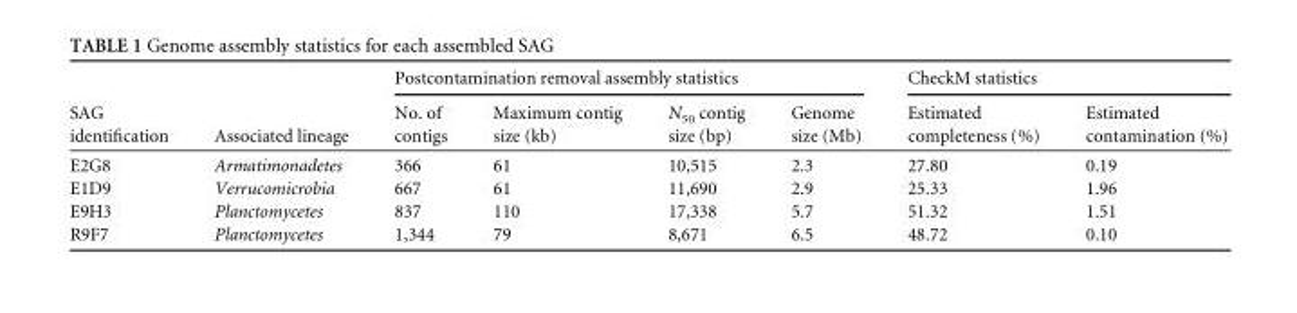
<table><thead><tr><td rowspan="2">SAG identification</td><td rowspan="2">Associated lineage</td><td colspan="4">Postcontamination removal assembly statistics</td><td colspan="2">CheckM statistics</td></tr><tr><td>No. of contigs</td><td>Maximum contig size (kb)</td><td>N<sub>50</sub> contig size (bp)</td><td>Genome size (Mb)</td><td>Estimated completeness (%)</td><td>Estimated contamination (%)</td></tr></thead><tbody><tr><td>E2G8</td><td>Armatimonadetes</td><td>366</td><td>61</td><td>10,515</td><td>2.3</td><td>27.80</td><td>0.19</td></tr><tr><td>E1D9</td><td>Verrucomicrobia</td><td>667</td><td>61</td><td>11,690</td><td>2.9</td><td>25.33</td><td>1.96</td></tr><tr><td>E9H3</td><td>Planctomycetes</td><td>837</td><td>110</td><td>17,338</td><td>5.7</td><td>51.32</td><td>1.51</td></tr><tr><td>R9F7</td><td>Planctomycetes</td><td>1,344</td><td>79</td><td>8,671</td><td>6.5</td><td>48.72</td><td>0.10</td></tr></tbody></table>